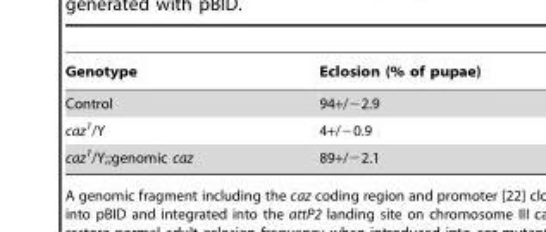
<table><thead><tr><td>Genotype</td><td>Eclosion (% of pupae)</td></tr></thead><tbody><tr><td>Control</td><td>94+/−2.9</td></tr><tr><td>caz<sup>1</sup>/Y</td><td>4+/−0.9</td></tr><tr><td>caz<sup>1</sup>/Y;;genomic caz</td><td>89+/−2.1</td></tr></tbody></table>